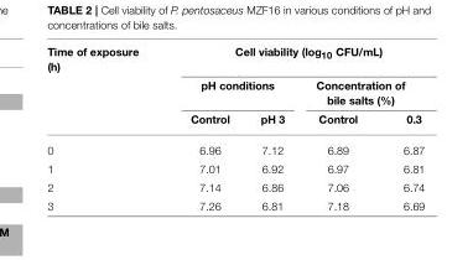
<table><thead><tr><td rowspan="3">Time of exposure (h)</td><td colspan="4">Cell viability (log<sub>10</sub> CFU/mL)</td></tr><tr><td colspan="2">pH conditions</td><td colspan="2">Concentration of bile salts (%)</td></tr><tr><td>Control</td><td>pH 3</td><td>Control</td><td>0.3</td></tr></thead><tbody><tr><td>0</td><td>6.96</td><td>7.12</td><td>6.89</td><td>6.87</td></tr><tr><td>1</td><td>7.01</td><td>6.92</td><td>6.97</td><td>6.81</td></tr><tr><td>2</td><td>7.14</td><td>6.86</td><td>7.06</td><td>6.74</td></tr><tr><td>3</td><td>7.26</td><td>6.81</td><td>7.18</td><td>6.69</td></tr></tbody></table>